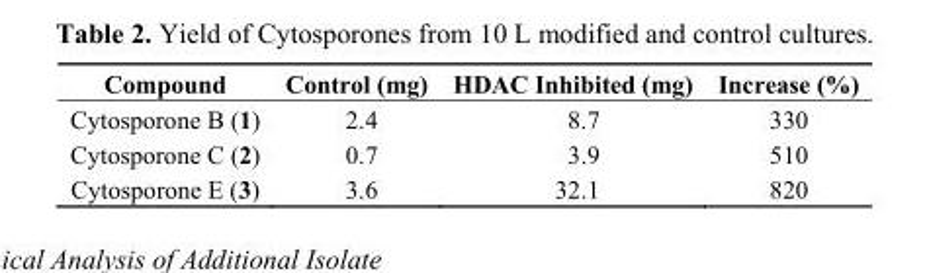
<table><thead><tr><td>Compound</td><td>Control (mg)</td><td>HDAC Inhibited (mg)</td><td>Increase (%)</td></tr></thead><tbody><tr><td>Cytosporone B (1)</td><td>2.4</td><td>8.7</td><td>330</td></tr><tr><td>Cytosporone C (2)</td><td>0.7</td><td>3.9</td><td>510</td></tr><tr><td>Cytosporone E (3)</td><td>3.6</td><td>32.1</td><td>820</td></tr></tbody></table>